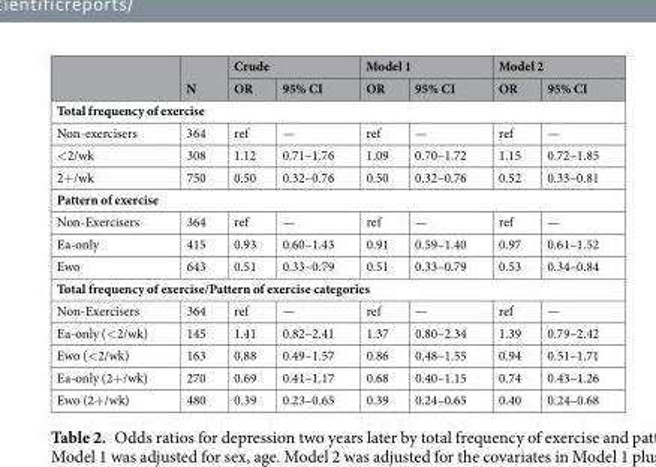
<table><thead><tr><td rowspan="2"></td><td rowspan="2">N</td><td colspan="2">Crude</td><td colspan="2">Model 1</td><td colspan="2">Model 2</td></tr><tr><td>OR</td><td>95% CI</td><td>OR</td><td>95% CI</td><td>OR</td><td>95% CI</td></tr></thead><tbody><tr><td colspan="8">Total frequency of exercise</td></tr><tr><td>Non-exercisers</td><td>364</td><td>ref</td><td>—</td><td>ref</td><td>—</td><td>ref</td><td>—</td></tr><tr><td>&lt;2/wk</td><td>308</td><td>1.12</td><td>0.71–1.76</td><td>1.09</td><td>0.70–1.72</td><td>1.15</td><td>0.72–1.85</td></tr><tr><td>2+/wk</td><td>750</td><td>0.50</td><td>0.32–0.76</td><td>0.50</td><td>0.32–0.76</td><td>0.52</td><td>0.33–0.81</td></tr><tr><td colspan="8">Pattern of exercise</td></tr><tr><td>Non-Exercisers</td><td>364</td><td>ref</td><td>—</td><td>ref</td><td>—</td><td>ref</td><td>—</td></tr><tr><td>Ea-only</td><td>415</td><td>0.93</td><td>0.60–1.43</td><td>0.91</td><td>0.59–1.40</td><td>0.97</td><td>0.61–1.52</td></tr><tr><td>Ewo</td><td>643</td><td>0.51</td><td>0.33–0.79</td><td>0.51</td><td>0.33–0.79</td><td>0.53</td><td>0.34–0.84</td></tr><tr><td colspan="8">Total frequency of exercise/Pattern of exercise categories</td></tr><tr><td>Non-Exercisers</td><td>364</td><td>ref</td><td>—</td><td>ref</td><td>—</td><td>ref</td><td>—</td></tr><tr><td>Ea-only (&lt;2/wk)</td><td>145</td><td>1.41</td><td>0.82–2.41</td><td>1.37</td><td>0.80–2.34</td><td>1.39</td><td>0.79–2.42</td></tr><tr><td>Ewo (&lt;2/wk)</td><td>163</td><td>0.88</td><td>0.49–1.57</td><td>0.86</td><td>0.48–1.55</td><td>0.94</td><td>0.51–1.71</td></tr><tr><td>Ea-only (2+/wk)</td><td>270</td><td>0.69</td><td>0.41–1.17</td><td>0.68</td><td>0.40–1.15</td><td>0.74</td><td>0.43–1.26</td></tr><tr><td>Ewo (2+/wk)</td><td>480</td><td>0.39</td><td>0.23–0.65</td><td>0.39</td><td>0.24–0.65</td><td>0.40</td><td>0.24–0.68</td></tr></tbody></table>